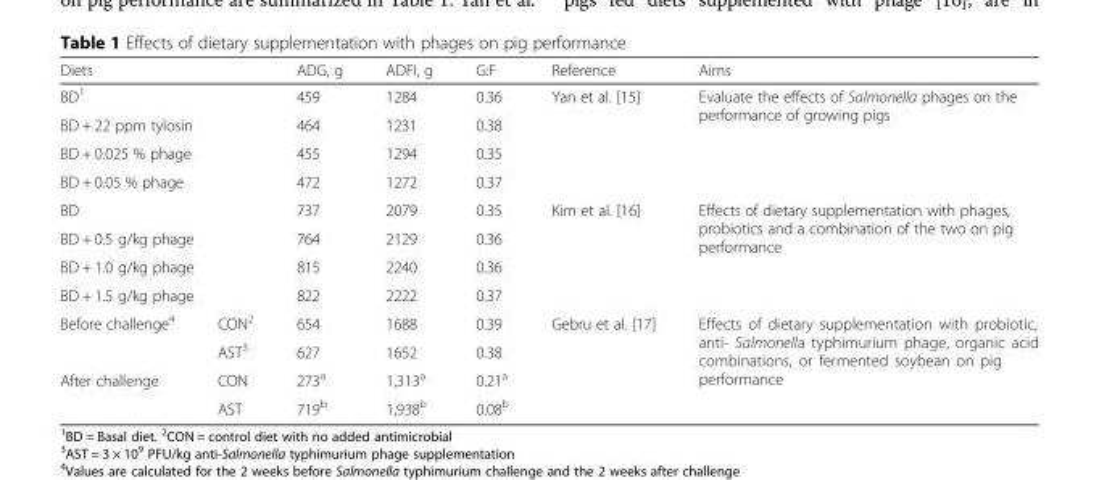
<table><thead><tr><td colspan="2">Diets</td><td>ADG, g</td><td>ADFI, g</td><td>G:F</td><td>Reference</td><td>Aims</td></tr></thead><tbody><tr><td colspan="2">BD<sup>1</sup></td><td>459</td><td>1284</td><td>0.36</td><td rowspan="4">Yan et al. [15]</td><td rowspan="4">Evaluate the effects of Salmonella phages on the performance of growing pigs</td></tr><tr><td colspan="2">BD + 22 ppm tylosin</td><td>464</td><td>1231</td><td>0.38</td></tr><tr><td colspan="2">BD + 0.025 % phage</td><td>455</td><td>1294</td><td>0.35</td></tr><tr><td colspan="2">BD + 0.05 % phage</td><td>472</td><td>1272</td><td>0.37</td></tr><tr><td colspan="2">BD</td><td>737</td><td>2079</td><td>0.35</td><td rowspan="4">Kim et al. [16]</td><td rowspan="4">Effects of dietary supplementation with phages, probiotics and a combination of the two on pig performance</td></tr><tr><td colspan="2">BD + 0.5 g/kg phage</td><td>764</td><td>2129</td><td>0.36</td></tr><tr><td colspan="2">BD + 1.0 g/kg phage</td><td>815</td><td>2240</td><td>0.36</td></tr><tr><td colspan="2">BD + 1.5 g/kg phage</td><td>822</td><td>2222</td><td>0.37</td></tr><tr><td rowspan="2">Before challenge<sup>4</sup></td><td>CON<sup>2</sup></td><td>654</td><td>1688</td><td>0.39</td><td rowspan="4">Gebru et al. [17]</td><td rowspan="4">Effects of dietary supplementation with probiotic, anti- Salmonella typhimurium phage, organic acid combinations, or fermented soybean on pig performance</td></tr><tr><td>AST<sup>3</sup></td><td>627</td><td>1652</td><td>0.38</td></tr><tr><td rowspan="2">After challenge</td><td>CON</td><td>273<sup>a</sup></td><td>1,313<sup>a</sup></td><td>0.21<sup>a</sup></td></tr><tr><td>AST</td><td>719<sup>b</sup></td><td>1,938<sup>b</sup></td><td>0.08<sup>b</sup></td></tr></tbody></table>